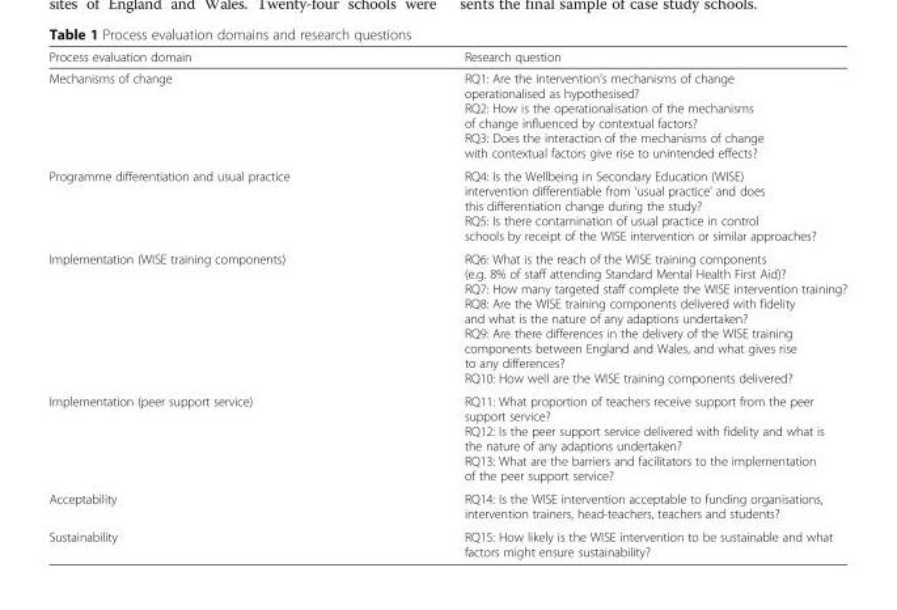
<table><thead><tr><td>Process evaluation domain</td><td>Research question</td></tr></thead><tbody><tr><td>Mechanisms of change</td><td>RQ1: Are the intervention’s mechanisms of change operationalised as hypothesised? RQ2: How is the operationalisation of the mechanisms of change influenced by contextual factors? RQ3: Does the interaction of the mechanisms of change with contextual factors give rise to unintended effects?</td></tr><tr><td>Programme differentiation and usual practice</td><td>RQ4: Is the Wellbeing in Secondary Education (WISE) intervention differentiable from ‘usual practice’ and does this differentiation change during the study? RQ5: Is there contamination of usual practice in control schools by receipt of the WISE intervention or similar approaches?</td></tr><tr><td>Implementation (WISE training components)</td><td>RQ6: What is the reach of the WISE training components (e.g. 8% of staff attending Standard Mental Health First Aid)? RQ7: How many targeted staff complete the WISE intervention training? RQ8: Are the WISE training components delivered with fidelity and what is the nature of any adaptions undertaken? RQ9: Are there differences in the delivery of the WISE training components between England and Wales, and what gives rise to any differences? RQ10: How well are the WISE training components delivered?</td></tr><tr><td>Implementation (peer support service)</td><td>RQ11: What proportion of teachers receive support from the peer support service? RQ12: Is the peer support service delivered with fidelity and what is the nature of any adaptions undertaken? RQ13: What are the barriers and facilitators to the implementation of the peer support service?</td></tr><tr><td>Acceptability</td><td>RQ14: Is the WISE intervention acceptable to funding organisations, intervention trainers, head-teachers, teachers and students?</td></tr><tr><td>Sustainability</td><td>RQ15: How likely is the WISE intervention to be sustainable and what factors might ensure sustainability?</td></tr></tbody></table>